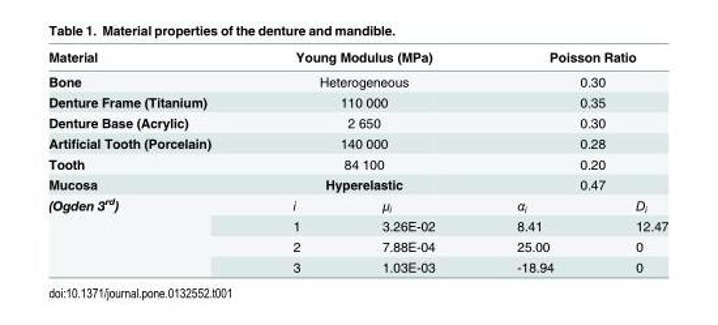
<table><thead><tr><td>Material</td><td colspan="2">Young Modulus (MPa)</td><td colspan="2">Poisson Ratio</td></tr></thead><tbody><tr><td>Bone</td><td colspan="2">Heterogeneous</td><td colspan="2">0.30</td></tr><tr><td>Denture Frame (Titanium)</td><td colspan="2">110 000</td><td colspan="2">0.35</td></tr><tr><td>Denture Base (Acrylic)</td><td colspan="2">2 650</td><td colspan="2">0.30</td></tr><tr><td>Artificial Tooth (Porcelain)</td><td colspan="2">140 000</td><td colspan="2">0.28</td></tr><tr><td>Tooth</td><td colspan="2">84 100</td><td colspan="2">0.20</td></tr><tr><td>Mucosa</td><td colspan="2">Hyperelastic</td><td colspan="2">0.47</td></tr><tr><td rowspan="4">(Ogden 3<sup>rd</sup>)</td><td>i</td><td>μ<sub>i</sub></td><td>α<sub>i</sub></td><td>D<sub>i</sub></td></tr><tr><td>1</td><td>3.26E-02</td><td>8.41</td><td>12.47</td></tr><tr><td>2</td><td>7.88E-04</td><td>25.00</td><td>0</td></tr><tr><td>3</td><td>1.03E-03</td><td>-18.94</td><td>0</td></tr></tbody></table>